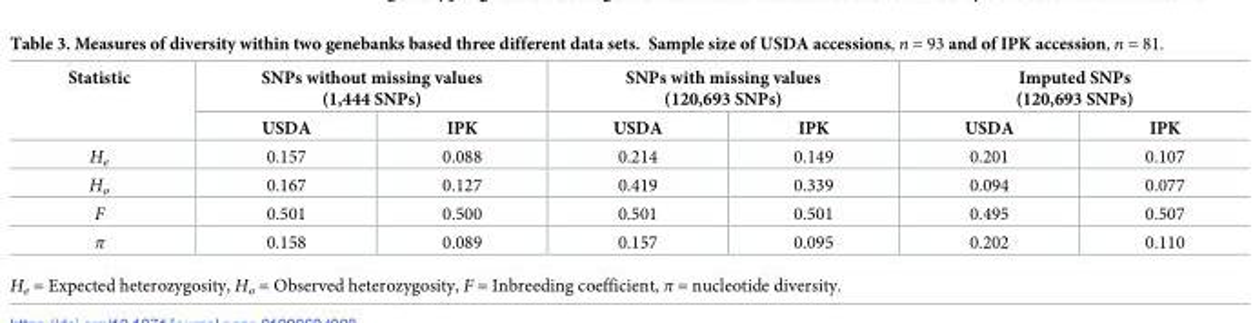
<table><thead><tr><td rowspan="2">Statistic</td><td colspan="2">SNPs without missing values (1,444 SNPs)</td><td colspan="2">SNPs with missing values (120,693 SNPs)</td><td colspan="2">Imputed SNPs (120,693 SNPs)</td></tr><tr><td>USDA</td><td>IPK</td><td>USDA</td><td>IPK</td><td>USDA</td><td>IPK</td></tr></thead><tbody><tr><td>H<sub>e</sub></td><td>0.157</td><td>0.088</td><td>0.214</td><td>0.149</td><td>0.201</td><td>0.107</td></tr><tr><td>H<sub>o</sub></td><td>0.167</td><td>0.127</td><td>0.419</td><td>0.339</td><td>0.094</td><td>0.077</td></tr><tr><td>F</td><td>0.501</td><td>0.500</td><td>0.501</td><td>0.501</td><td>0.495</td><td>0.507</td></tr><tr><td>π</td><td>0.158</td><td>0.089</td><td>0.157</td><td>0.095</td><td>0.202</td><td>0.110</td></tr></tbody></table>